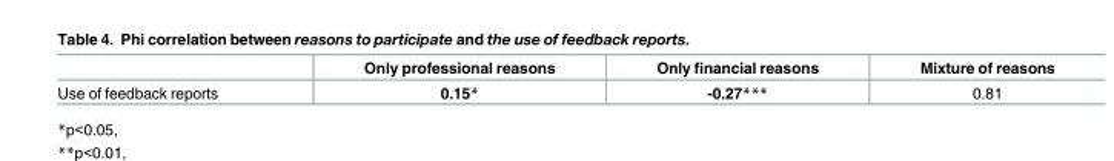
<table><thead><tr><td></td><td>Only professional reasons</td><td>Only financial reasons</td><td>Mixture of reasons</td></tr></thead><tbody><tr><td>Use of feedback reports</td><td>0.15*</td><td>-0.27***</td><td>0.81</td></tr></tbody></table>